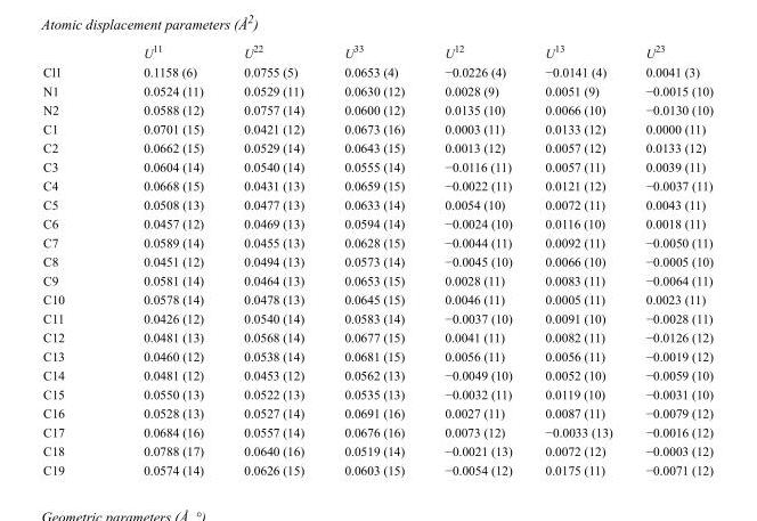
<table><thead><tr><td></td><td>U<sup>11</sup></td><td>U<sup>22</sup></td><td>U<sup>33</sup></td><td>U<sup>12</sup></td><td>U<sup>13</sup></td><td>U<sup>23</sup></td></tr></thead><tbody><tr><td>Cl1</td><td>0.1158 (6)</td><td>0.0755 (5)</td><td>0.0653 (4)</td><td>−0.0226 (4)</td><td>−0.0141 (4)</td><td>0.0041 (3)</td></tr><tr><td>N1</td><td>0.0524 (11)</td><td>0.0529 (11)</td><td>0.0630 (12)</td><td>0.0028 (9)</td><td>0.0051 (9)</td><td>−0.0015 (10)</td></tr><tr><td>N2</td><td>0.0588 (12)</td><td>0.0757 (14)</td><td>0.0600 (12)</td><td>0.0135 (10)</td><td>0.0066 (10)</td><td>−0.0130 (10)</td></tr><tr><td>C1</td><td>0.0701 (15)</td><td>0.0421 (12)</td><td>0.0673 (16)</td><td>0.0003 (11)</td><td>0.0133 (12)</td><td>0.0000 (11)</td></tr><tr><td>C2</td><td>0.0662 (15)</td><td>0.0529 (14)</td><td>0.0643 (15)</td><td>0.0013 (12)</td><td>0.0057 (12)</td><td>0.0133 (12)</td></tr><tr><td>C3</td><td>0.0604 (14)</td><td>0.0540 (14)</td><td>0.0555 (14)</td><td>−0.0116 (11)</td><td>0.0057 (11)</td><td>0.0039 (11)</td></tr><tr><td>C4</td><td>0.0668 (15)</td><td>0.0431 (13)</td><td>0.0659 (15)</td><td>−0.0022 (11)</td><td>0.0121 (12)</td><td>−0.0037 (11)</td></tr><tr><td>C5</td><td>0.0508 (13)</td><td>0.0477 (13)</td><td>0.0633 (14)</td><td>0.0054 (10)</td><td>0.0072 (11)</td><td>0.0043 (11)</td></tr><tr><td>C6</td><td>0.0457 (12)</td><td>0.0469 (13)</td><td>0.0594 (14)</td><td>−0.0024 (10)</td><td>0.0116 (10)</td><td>0.0018 (11)</td></tr><tr><td>C7</td><td>0.0589 (14)</td><td>0.0455 (13)</td><td>0.0628 (15)</td><td>−0.0044 (11)</td><td>0.0092 (11)</td><td>−0.0050 (11)</td></tr><tr><td>C8</td><td>0.0451 (12)</td><td>0.0494 (13)</td><td>0.0573 (14)</td><td>−0.0045 (10)</td><td>0.0066 (10)</td><td>−0.0005 (10)</td></tr><tr><td>C9</td><td>0.0581 (14)</td><td>0.0464 (13)</td><td>0.0653 (15)</td><td>0.0028 (11)</td><td>0.0083 (11)</td><td>−0.0064 (11)</td></tr><tr><td>C10</td><td>0.0578 (14)</td><td>0.0478 (13)</td><td>0.0645 (15)</td><td>0.0046 (11)</td><td>0.0005 (11)</td><td>0.0023 (11)</td></tr><tr><td>C11</td><td>0.0426 (12)</td><td>0.0540 (14)</td><td>0.0583 (14)</td><td>−0.0037 (10)</td><td>0.0091 (10)</td><td>−0.0028 (11)</td></tr><tr><td>C12</td><td>0.0481 (13)</td><td>0.0568 (14)</td><td>0.0677 (15)</td><td>0.0041 (11)</td><td>0.0082 (11)</td><td>−0.0126 (12)</td></tr><tr><td>C13</td><td>0.0460 (12)</td><td>0.0538 (14)</td><td>0.0681 (15)</td><td>0.0056 (11)</td><td>0.0056 (11)</td><td>−0.0019 (12)</td></tr><tr><td>C14</td><td>0.0481 (12)</td><td>0.0453 (12)</td><td>0.0562 (13)</td><td>−0.0049 (10)</td><td>0.0052 (10)</td><td>−0.0059 (10)</td></tr><tr><td>C15</td><td>0.0550 (13)</td><td>0.0522 (13)</td><td>0.0535 (13)</td><td>−0.0032 (11)</td><td>0.0119 (10)</td><td>−0.0031 (10)</td></tr><tr><td>C16</td><td>0.0528 (13)</td><td>0.0527 (14)</td><td>0.0691 (16)</td><td>0.0027 (11)</td><td>0.0087 (11)</td><td>−0.0079 (12)</td></tr><tr><td>C17</td><td>0.0684 (16)</td><td>0.0557 (14)</td><td>0.0676 (16)</td><td>0.0073 (12)</td><td>−0.0033 (13)</td><td>−0.0016 (12)</td></tr><tr><td>C18</td><td>0.0788 (17)</td><td>0.0640 (16)</td><td>0.0519 (14)</td><td>−0.0021 (13)</td><td>0.0072 (12)</td><td>−0.0003 (12)</td></tr><tr><td>C19</td><td>0.0574 (14)</td><td>0.0626 (15)</td><td>0.0603 (15)</td><td>−0.0054 (12)</td><td>0.0175 (11)</td><td>−0.0071 (12)</td></tr></tbody></table>